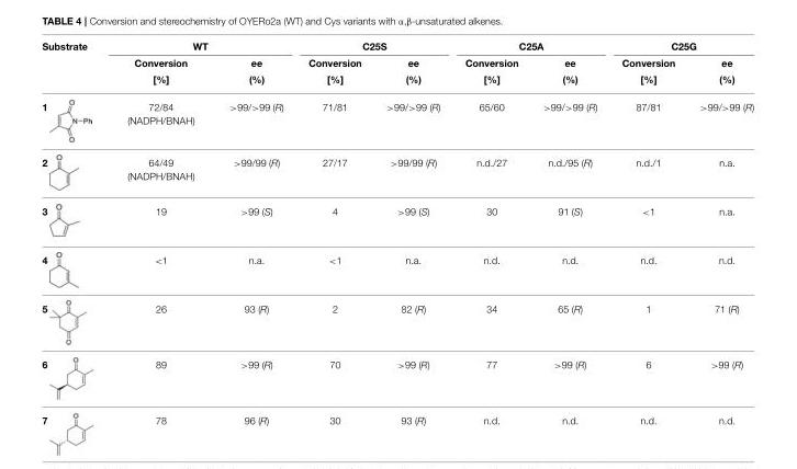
<table><thead><tr><td rowspan="3">Substrate</td><td colspan="2">WT</td><td colspan="2">C25S</td><td colspan="2">C25A</td><td colspan="2">C25G</td></tr><tr><td rowspan="2">Conversion [%]</td><td rowspan="2">ee (%)</td><td rowspan="2">Conversion [%]</td><td rowspan="2">ee (%)</td><td rowspan="2">Conversion [%]</td><td rowspan="2">ee (%)</td><td rowspan="2">Conversion [%]</td><td rowspan="2">ee (%)</td></tr><tr></tr></thead><tbody><tr><td>1</td><td>72/84 (NADPH/BNAH)</td><td>&gt;99/&gt;99 (R)</td><td>71/81</td><td>&gt;99/&gt;99 (R)</td><td>65/60</td><td>&gt;99/&gt;99 (R)</td><td>87/81</td><td>&gt;99/&gt;99 (R)</td></tr><tr><td>2</td><td>64/49 (NADPH/BNAH)</td><td>&gt;99/99 (R)</td><td>27/17</td><td>&gt;99/99 (R)</td><td>n.d./27</td><td>n.d./95 (R)</td><td>n.d./1</td><td>n.a.</td></tr><tr><td>3</td><td>19</td><td>&gt;99 (S)</td><td>4</td><td>&gt;99 (S)</td><td>30</td><td>91 (S)</td><td>&lt;1</td><td>n.a.</td></tr><tr><td>4</td><td>&lt;1</td><td>n.a.</td><td>&lt;1</td><td>n.a.</td><td>n.d.</td><td>n.d.</td><td>n.d.</td><td>n.d.</td></tr><tr><td>5</td><td>26</td><td>93 (R)</td><td>2</td><td>82 (R)</td><td>34</td><td>65 (R)</td><td>1</td><td>71 (R)</td></tr><tr><td>6</td><td>89</td><td>&gt;99 (R)</td><td>70</td><td>&gt;99 (R)</td><td>77</td><td>&gt;99 (R)</td><td>6</td><td>&gt;99 (R)</td></tr><tr><td>7</td><td>78</td><td>96 (R)</td><td>30</td><td>93 (R)</td><td>n.d.</td><td>n.d.</td><td>n.d.</td><td>n.d.</td></tr></tbody></table>